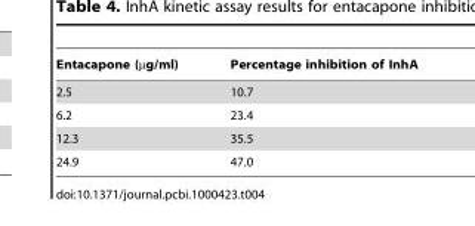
<table><thead><tr><td>Entacapone (µg/ml)</td><td>Percentage inhibition of InhA</td></tr></thead><tbody><tr><td>2.5</td><td>10.7</td></tr><tr><td>6.2</td><td>23.4</td></tr><tr><td>12.3</td><td>35.5</td></tr><tr><td>24.9</td><td>47.0</td></tr></tbody></table>